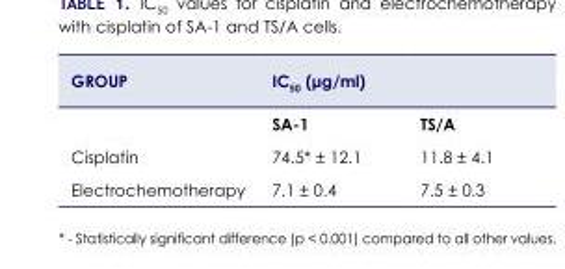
<table><thead><tr><td>Group</td><td>IC<sub>50</sub> (μg/ml)</td><td></td></tr></thead><tbody><tr><td></td><td>SA-1</td><td>TS/A</td></tr><tr><td>Cisplatin</td><td>74.5* ± 12.1</td><td>11.8 ± 4.1</td></tr><tr><td>Electrochemotherapy</td><td>7.1 ± 0.4</td><td>7.5 ± 0.3</td></tr></tbody></table>